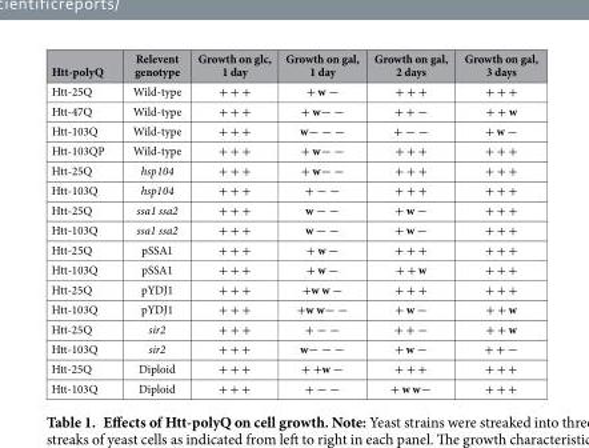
<table><thead><tr><td>Htt-polyQ</td><td>Relevent genotype</td><td>Growth on glc, 1 day</td><td>Growth on gal, 1 day</td><td>Growth on gal, 2 days</td><td>Growth on gal, 3 days</td></tr></thead><tbody><tr><td>Htt-25Q</td><td>Wild-type</td><td>+ + +</td><td>+ w −</td><td>+ + +</td><td>+ + +</td></tr><tr><td>Htt-47Q</td><td>Wild-type</td><td>+ + +</td><td>+ w− −</td><td>+ + −</td><td>+ + w</td></tr><tr><td>Htt-103Q</td><td>Wild-type</td><td>+ + +</td><td>w− − −</td><td>+ − −</td><td>+ w −</td></tr><tr><td>Htt-103QP</td><td>Wild-type</td><td>+ + +</td><td>+ w− −</td><td>+ + +</td><td>+ + +</td></tr><tr><td>Htt-25Q</td><td>hsp104</td><td>+ + +</td><td>+ w− −</td><td>+ + +</td><td>+ + +</td></tr><tr><td>Htt-103Q</td><td>hsp104</td><td>+ + +</td><td>+ − −</td><td>+ + +</td><td>+ + +</td></tr><tr><td>Htt-25Q</td><td>ssa1 ssa2</td><td>+ + +</td><td>w − −</td><td>+ w −</td><td>+ + +</td></tr><tr><td>Htt-103Q</td><td>ssa1 ssa2</td><td>+ + +</td><td>w − −</td><td>+ w −</td><td>+ + +</td></tr><tr><td>Htt-25Q</td><td>pSSA1</td><td>+ + +</td><td>+ w −</td><td>+ + +</td><td>+ + +</td></tr><tr><td>Htt-103Q</td><td>pSSA1</td><td>+ + +</td><td>+ w −</td><td>+ + w</td><td>+ + +</td></tr><tr><td>Htt-25Q</td><td>pYDJ1</td><td>+ + +</td><td>+w w −</td><td>+ + +</td><td>+ + +</td></tr><tr><td>Htt-103Q</td><td>pYDJ1</td><td>+ + +</td><td>+w w− −</td><td>+ w −</td><td>+ + w</td></tr><tr><td>Htt-25Q</td><td>sir2</td><td>+ + +</td><td>+ − −</td><td>+ + −</td><td>+ + w</td></tr><tr><td>Htt-103Q</td><td>sir2</td><td>+ + +</td><td>w− − −</td><td>+ w −</td><td>+ + −</td></tr><tr><td>Htt-25Q</td><td>Diploid</td><td>+ + +</td><td>+ +w −</td><td>+ + +</td><td>+ + +</td></tr><tr><td>Htt-103Q</td><td>Diploid</td><td>+ + +</td><td>+ − −</td><td>+ w w−</td><td>+ + +</td></tr></tbody></table>